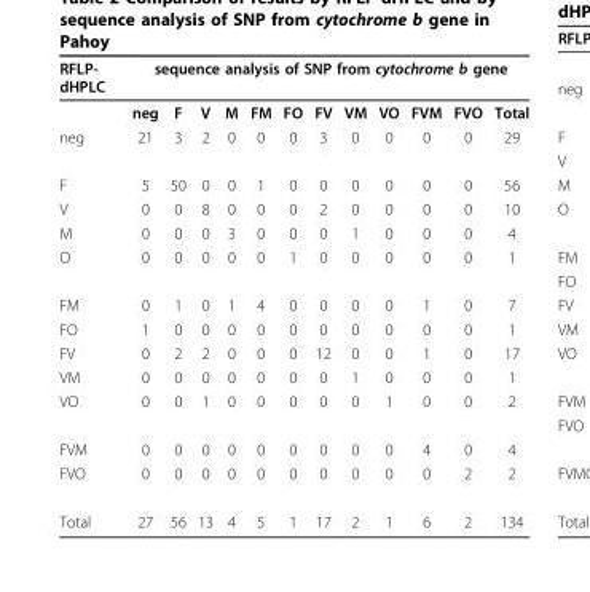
<table><tbody><tr><td rowspan="2">RFLP- dHPLC</td><td colspan="12">sequence analysis of SNP from cytochrome b gene</td></tr><tr><td>neg</td><td>F</td><td>V</td><td>M</td><td>FM</td><td>FO</td><td>FV</td><td>VM</td><td>VO</td><td>FVM</td><td>FVO</td><td>Total</td></tr><tr><td>neg</td><td>21</td><td>3</td><td>2</td><td>0</td><td>0</td><td>0</td><td>3</td><td>0</td><td>0</td><td>0</td><td>0</td><td>29</td></tr><tr><td>F</td><td>5</td><td>50</td><td>0</td><td>0</td><td>1</td><td>0</td><td>0</td><td>0</td><td>0</td><td>0</td><td>0</td><td>56</td></tr><tr><td>V</td><td>0</td><td>0</td><td>8</td><td>0</td><td>0</td><td>0</td><td>2</td><td>0</td><td>0</td><td>0</td><td>0</td><td>10</td></tr><tr><td>M</td><td>0</td><td>0</td><td>0</td><td>3</td><td>0</td><td>0</td><td>0</td><td>1</td><td>0</td><td>0</td><td>0</td><td>4</td></tr><tr><td>O</td><td>0</td><td>0</td><td>0</td><td>0</td><td>0</td><td>1</td><td>0</td><td>0</td><td>0</td><td>0</td><td>0</td><td>1</td></tr><tr><td>FM</td><td>0</td><td>1</td><td>0</td><td>1</td><td>4</td><td>0</td><td>0</td><td>0</td><td>0</td><td>1</td><td>0</td><td>7</td></tr><tr><td>FO</td><td>1</td><td>0</td><td>0</td><td>0</td><td>0</td><td>0</td><td>0</td><td>0</td><td>0</td><td>0</td><td>0</td><td>1</td></tr><tr><td>FV</td><td>0</td><td>2</td><td>2</td><td>0</td><td>0</td><td>0</td><td>12</td><td>0</td><td>0</td><td>1</td><td>0</td><td>17</td></tr><tr><td>VM</td><td>0</td><td>0</td><td>0</td><td>0</td><td>0</td><td>0</td><td>0</td><td>1</td><td>0</td><td>0</td><td>0</td><td>1</td></tr><tr><td>VO</td><td>0</td><td>0</td><td>1</td><td>0</td><td>0</td><td>0</td><td>0</td><td>0</td><td>1</td><td>0</td><td>0</td><td>2</td></tr><tr><td>FVM</td><td>0</td><td>0</td><td>0</td><td>0</td><td>0</td><td>0</td><td>0</td><td>0</td><td>0</td><td>4</td><td>0</td><td>4</td></tr><tr><td>FVO</td><td>0</td><td>0</td><td>0</td><td>0</td><td>0</td><td>0</td><td>0</td><td>0</td><td>0</td><td>0</td><td>2</td><td>2</td></tr><tr><td>Total</td><td>27</td><td>56</td><td>13</td><td>4</td><td>5</td><td>1</td><td>17</td><td>2</td><td>1</td><td>6</td><td>2</td><td>134</td></tr></tbody></table>